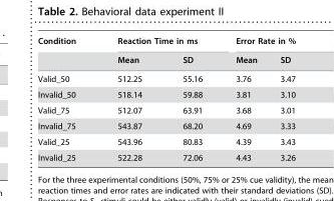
<table><thead><tr><td rowspan="2">Condition</td><td colspan="2">Reaction Time in ms</td><td colspan="2">Error Rate in %</td></tr><tr><td>Mean</td><td>SD</td><td>Mean</td><td>SD</td></tr></thead><tbody><tr><td>Valid_50</td><td>512.25</td><td>55.16</td><td>3.76</td><td>3.47</td></tr><tr><td>Invalid_50</td><td>518.14</td><td>59.88</td><td>3.81</td><td>3.10</td></tr><tr><td>Valid_75</td><td>512.07</td><td>63.91</td><td>3.68</td><td>3.01</td></tr><tr><td>Invalid_75</td><td>543.87</td><td>68.20</td><td>4.69</td><td>3.33</td></tr><tr><td>Valid_25</td><td>543.96</td><td>80.83</td><td>4.39</td><td>3.43</td></tr><tr><td>Invalid_25</td><td>522.28</td><td>72.06</td><td>4.43</td><td>3.26</td></tr></tbody></table>